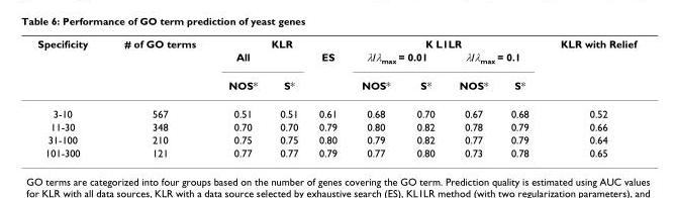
<table><thead><tr><td rowspan="3">Specificity</td><td rowspan="3"># of GO terms</td><td colspan="3">KLR</td><td colspan="4">K L1LR</td><td rowspan="3">KLR with Relief</td></tr><tr><td rowspan="2">All NOS*</td><td rowspan="2">S*</td><td rowspan="2">ES</td><td colspan="2">λ/λ<sub>max</sub> = 0.01</td><td colspan="2">λ/λ<sub>max</sub> = 0.1</td></tr><tr><td>NOS*</td><td>S*</td><td>NOS*</td><td>S*</td></tr></thead><tbody><tr><td>3-10</td><td>567</td><td>0.51</td><td>0.51</td><td>0.61</td><td>0.68</td><td>0.70</td><td>0.67</td><td>0.68</td><td>0.52</td></tr><tr><td>11-30</td><td>348</td><td>0.70</td><td>0.70</td><td>0.79</td><td>0.80</td><td>0.82</td><td>0.78</td><td>0.79</td><td>0.66</td></tr><tr><td>31-100</td><td>210</td><td>0.75</td><td>0.75</td><td>0.80</td><td>0.79</td><td>0.82</td><td>0.77</td><td>0.79</td><td>0.64</td></tr><tr><td>101-300</td><td>121</td><td>0.77</td><td>0.77</td><td>0.79</td><td>0.77</td><td>0.80</td><td>0.73</td><td>0.78</td><td>0.65</td></tr></tbody></table>